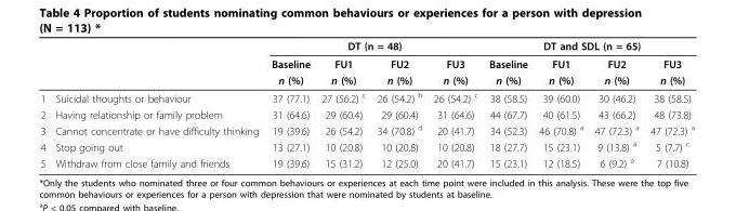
<table><thead><tr><td rowspan="3"></td><td rowspan="3"></td><td colspan="4">DT (n = 48)</td><td colspan="4">DT and SDL (n = 65)</td></tr><tr><td rowspan="2">Baseline n (%)</td><td rowspan="2">FU1 n (%)</td><td rowspan="2">FU2 n (%)</td><td rowspan="2">FU3 n (%)</td><td rowspan="2">Baseline n (%)</td><td rowspan="2">FU1 n (%)</td><td rowspan="2">FU2 n (%)</td><td rowspan="2">FU3 n (%)</td></tr><tr></tr></thead><tbody><tr><td>1</td><td>Suicidal thoughts or behaviour</td><td>37 (77.1)</td><td>27 (56.2) <sup>c</sup></td><td>26 (54.2) <sup>b</sup></td><td>26 (54.2) <sup>c</sup></td><td>38 (58.5)</td><td>39 (60.0)</td><td>30 (46.2)</td><td>38 (58.5)</td></tr><tr><td>2</td><td>Having relationship or family problem</td><td>31 (64.6)</td><td>29 (60.4)</td><td>29 (60.4)</td><td>31 (64.6)</td><td>44 (67.7)</td><td>40 (61.5)</td><td>43 (66.2)</td><td>48 (73.8)</td></tr><tr><td>3</td><td>Cannot concentrate or have difficulty thinking</td><td>19 (39.6)</td><td>26 (54.2)</td><td>34 (70.8) <sup>d</sup></td><td>20 (41.7)</td><td>34 (52.3)</td><td>46 (70.8) <sup>a</sup></td><td>47 (72.3) <sup>a</sup></td><td>47 (72.3) <sup>a</sup></td></tr><tr><td>4</td><td>Stop going out</td><td>13 (27.1)</td><td>10 (20.8)</td><td>10 (20.8)</td><td>10 (20.8)</td><td>18 (27.7)</td><td>15 (23.1)</td><td>9 (13.8) <sup>a</sup></td><td>5 (7.7) <sup>c</sup></td></tr><tr><td>5</td><td>Withdraw from close family and friends</td><td>19 (39.6)</td><td>15 (31.2)</td><td>12 (25.0)</td><td>20 (41.7)</td><td>15 (23.1)</td><td>12 (18.5)</td><td>6 (9.2) <sup>a</sup></td><td>7 (10.8)</td></tr></tbody></table>